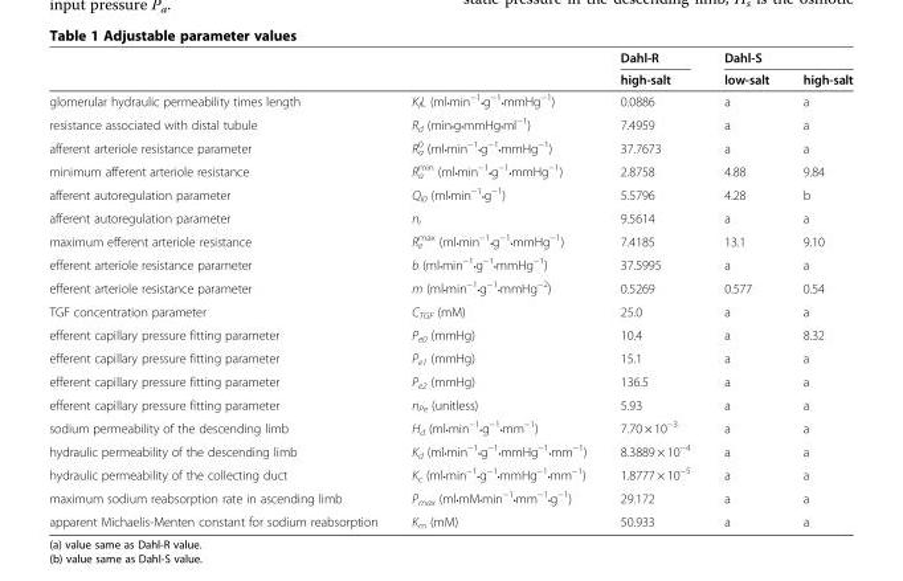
<table><thead><tr><td rowspan="2"></td><td rowspan="2"></td><td rowspan="2">Dahl-R high-salt</td><td colspan="2">Dahl-S</td></tr><tr><td>low-salt</td><td>high-salt</td></tr></thead><tbody><tr><td>glomerular hydraulic permeability times length</td><td>KfL (ml•min−1•g−1•mmHg−1)</td><td>0.0886</td><td>a</td><td>a</td></tr><tr><td>resistance associated with distal tubule</td><td>Rd (min•g•mmHg•ml−1)</td><td>7.4959</td><td>a</td><td>a</td></tr><tr><td>afferent arteriole resistance parameter</td><td>Ra 0 (ml•min−1•g−1•mmHg−1)</td><td>37.7673</td><td>a</td><td>a</td></tr><tr><td>minimum afferent arteriole resistance</td><td>Ra min (ml•min−1•g−1•mmHg−1)</td><td>2.8758</td><td>4.88</td><td>9.84</td></tr><tr><td>afferent autoregulation parameter</td><td>Qi0 (ml•min−1•g−1)</td><td>5.5796</td><td>4.28</td><td>b</td></tr><tr><td>afferent autoregulation parameter</td><td>n<sub>i</sub></td><td>9.5614</td><td>a</td><td>a</td></tr><tr><td>maximum efferent arteriole resistance</td><td>Re max (ml•min−1•g−1•mmHg−1)</td><td>7.4185</td><td>13.1</td><td>9.10</td></tr><tr><td>efferent arteriole resistance parameter</td><td>b (ml•min−1•g−1•mmHg−1)</td><td>37.5995</td><td>a</td><td>a</td></tr><tr><td>efferent arteriole resistance parameter</td><td>m (ml•min−1•g−1•mmHg−2)</td><td>0.5269</td><td>0.577</td><td>0.54</td></tr><tr><td>TGF concentration parameter</td><td>C<sub>TGF</sub> (mM)</td><td>25.0</td><td>a</td><td>a</td></tr><tr><td>efferent capillary pressure fitting parameter</td><td>P<sub>e0</sub> (mmHg)</td><td>10.4</td><td>a</td><td>8.32</td></tr><tr><td>efferent capillary pressure fitting parameter</td><td>P<sub>e1</sub> (mmHg)</td><td>15.1</td><td>a</td><td>a</td></tr><tr><td>efferent capillary pressure fitting parameter</td><td>P<sub>e2</sub> (mmHg)</td><td>136.5</td><td>a</td><td>a</td></tr><tr><td>efferent capillary pressure fitting parameter</td><td>n<sub>Pe</sub> (unitless)</td><td>5.93</td><td>a</td><td>a</td></tr><tr><td>sodium permeability of the descending limb</td><td>Hd (ml•min−1•g−1•mm−1)</td><td>7.70 × 10<sup>−3</sup></td><td>a</td><td>a</td></tr><tr><td>hydraulic permeability of the descending limb</td><td>Kd (ml•min−1•g−1•mmHg−1•mm−1)</td><td>8.3889 × 10<sup>−4</sup></td><td>a</td><td>a</td></tr><tr><td>hydraulic permeability of the collecting duct</td><td>Kc (ml•min−1•g−1•mmHg−1•mm−1)</td><td>1.8777 × 10<sup>−5</sup></td><td>a</td><td>a</td></tr><tr><td>maximum sodium reabsorption rate in ascending limb</td><td>Pmax (ml•mM•min−1•mm−1•g−1)</td><td>29.172</td><td>a</td><td>a</td></tr><tr><td>apparent Michaelis-Menten constant for sodium reabsorption</td><td>K<sub>m</sub> (mM)</td><td>50.933</td><td>a</td><td>a</td></tr></tbody></table>